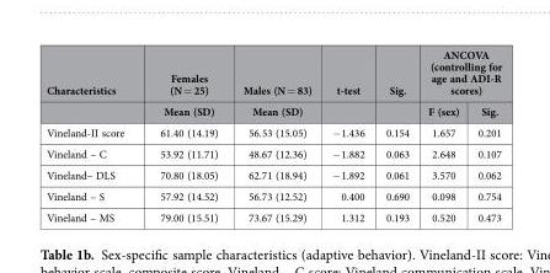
<table><thead><tr><td rowspan="2">Characteristics</td><td rowspan="2">Females (N = 25) Mean (SD)</td><td rowspan="2">Males (N = 83) Mean (SD)</td><td rowspan="2">t-test</td><td rowspan="2">Sig.</td><td colspan="2">ANCOVA (controlling for age and ADI-R scores)</td></tr><tr><td>F (sex)</td><td>Sig.</td></tr></thead><tbody><tr><td>Vineland-II score</td><td>61.40 (14.19)</td><td>56.53 (15.05)</td><td>− 1.436</td><td>0.154</td><td>1.657</td><td>0.201</td></tr><tr><td>Vineland – C</td><td>53.92 (11.71)</td><td>48.67 (12.36)</td><td>− 1.882</td><td>0.063</td><td>2.648</td><td>0.107</td></tr><tr><td>Vineland– DLS</td><td>70.80 (18.05)</td><td>62.71 (18.94)</td><td>− 1.892</td><td>0.061</td><td>3.570</td><td>0.062</td></tr><tr><td>Vineland – S</td><td>57.92 (14.52)</td><td>56.73 (12.52)</td><td>0.400</td><td>0.690</td><td>0.098</td><td>0.754</td></tr><tr><td>Vineland – MS</td><td>79.00 (15.51)</td><td>73.67 (15.29)</td><td>1.312</td><td>0.193</td><td>0.520</td><td>0.473</td></tr></tbody></table>